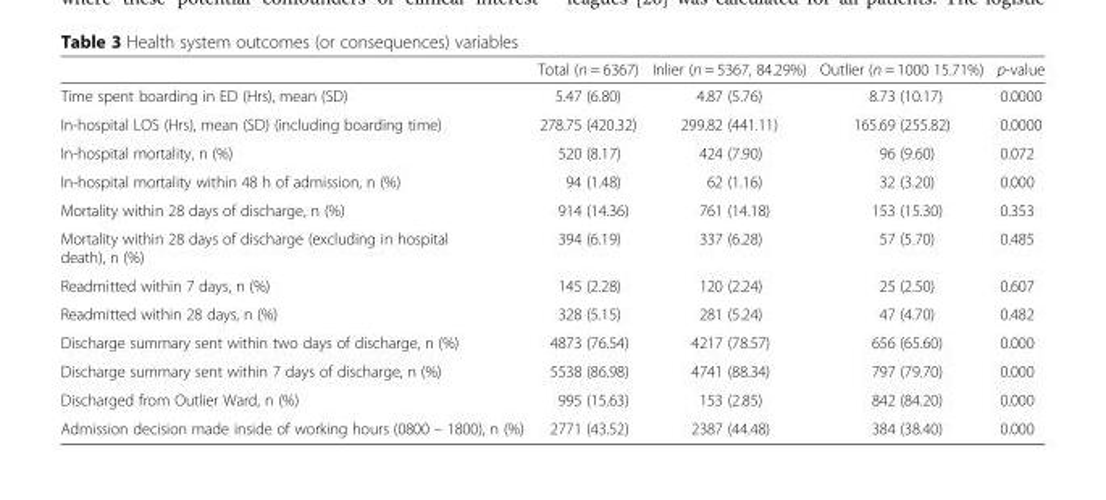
<table><thead><tr><td></td><td>Total (n = 6367)</td><td>Inlier (n = 5367, 84.29%)</td><td>Outlier (n = 1000 15.71%)</td><td>p-value</td></tr></thead><tbody><tr><td>Time spent boarding in ED (Hrs), mean (SD)</td><td>5.47 (6.80)</td><td>4.87 (5.76)</td><td>8.73 (10.17)</td><td>0.0000</td></tr><tr><td>In-hospital LOS (Hrs), mean (SD) (including boarding time)</td><td>278.75 (420.32)</td><td>299.82 (441.11)</td><td>165.69 (255.82)</td><td>0.0000</td></tr><tr><td>In-hospital mortality, n (%)</td><td>520 (8.17)</td><td>424 (7.90)</td><td>96 (9.60)</td><td>0.072</td></tr><tr><td>In-hospital mortality within 48 h of admission, n (%)</td><td>94 (1.48)</td><td>62 (1.16)</td><td>32 (3.20)</td><td>0.000</td></tr><tr><td>Mortality within 28 days of discharge, n (%)</td><td>914 (14.36)</td><td>761 (14.18)</td><td>153 (15.30)</td><td>0.353</td></tr><tr><td>Mortality within 28 days of discharge (excluding in hospital death), n (%)</td><td>394 (6.19)</td><td>337 (6.28)</td><td>57 (5.70)</td><td>0.485</td></tr><tr><td>Readmitted within 7 days, n (%)</td><td>145 (2.28)</td><td>120 (2.24)</td><td>25 (2.50)</td><td>0.607</td></tr><tr><td>Readmitted within 28 days, n (%)</td><td>328 (5.15)</td><td>281 (5.24)</td><td>47 (4.70)</td><td>0.482</td></tr><tr><td>Discharge summary sent within two days of discharge, n (%)</td><td>4873 (76.54)</td><td>4217 (78.57)</td><td>656 (65.60)</td><td>0.000</td></tr><tr><td>Discharge summary sent within 7 days of discharge, n (%)</td><td>5538 (86.98)</td><td>4741 (88.34)</td><td>797 (79.70)</td><td>0.000</td></tr><tr><td>Discharged from Outlier Ward, n (%)</td><td>995 (15.63)</td><td>153 (2.85)</td><td>842 (84.20)</td><td>0.000</td></tr><tr><td>Admission decision made inside of working hours (0800 – 1800), n (%)</td><td>2771 (43.52)</td><td>2387 (44.48)</td><td>384 (38.40)</td><td>0.000</td></tr></tbody></table>